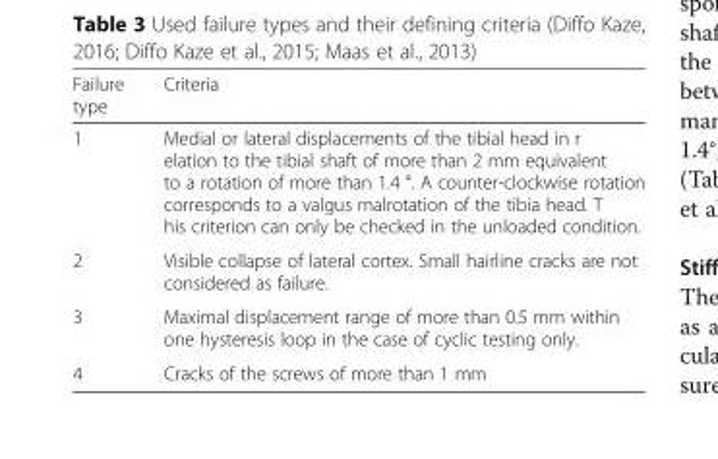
<table><thead><tr><td>Failure type</td><td>Criteria</td></tr></thead><tbody><tr><td>1</td><td>Medial or lateral displacements of the tibial head in r elation to the tibial shaft of more than 2 mm equivalent to a rotation of more than 1.4 °. A counter-clockwise rotation corresponds to a valgus malrotation of the tibia head. T his criterion can only be checked in the unloaded condition.</td></tr><tr><td>2</td><td>Visible collapse of lateral cortex. Small hairline cracks are not considered as failure.</td></tr><tr><td>3</td><td>Maximal displacement range of more than 0.5 mm within one hysteresis loop in the case of cyclic testing only.</td></tr><tr><td>4</td><td>Cracks of the screws of more than 1 mm</td></tr></tbody></table>